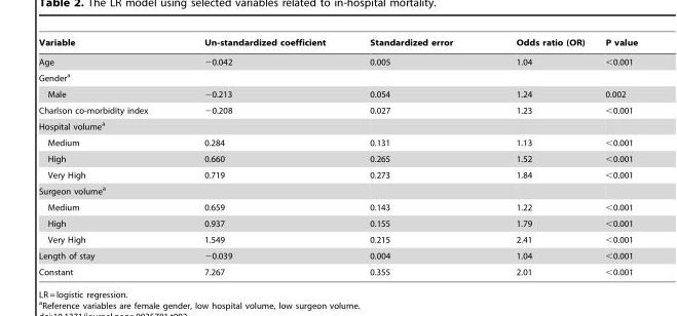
<table><thead><tr><td>Variable</td><td>Un-standardized coefficient</td><td>Standardized error</td><td>Odds ratio (OR)</td><td>P value</td></tr></thead><tbody><tr><td>Age</td><td>−0.042</td><td>0.005</td><td>1.04</td><td>&lt;0.001</td></tr><tr><td colspan="5">Gender<sup>a</sup></td></tr><tr><td>Male</td><td>−0.213</td><td>0.054</td><td>1.24</td><td>0.002</td></tr><tr><td>Charlson co-morbidity index</td><td>−0.208</td><td>0.027</td><td>1.23</td><td>&lt;0.001</td></tr><tr><td colspan="5">Hospital volume<sup>a</sup></td></tr><tr><td>Medium</td><td>0.284</td><td>0.131</td><td>1.13</td><td>&lt;0.001</td></tr><tr><td>High</td><td>0.660</td><td>0.265</td><td>1.52</td><td>&lt;0.001</td></tr><tr><td>Very High</td><td>0.719</td><td>0.273</td><td>1.84</td><td>&lt;0.001</td></tr><tr><td colspan="5">Surgeon volume<sup>a</sup></td></tr><tr><td>Medium</td><td>0.659</td><td>0.143</td><td>1.22</td><td>&lt;0.001</td></tr><tr><td>High</td><td>0.937</td><td>0.155</td><td>1.79</td><td>&lt;0.001</td></tr><tr><td>Very High</td><td>1.549</td><td>0.215</td><td>2.41</td><td>&lt;0.001</td></tr><tr><td>Length of stay</td><td>−0.039</td><td>0.004</td><td>1.04</td><td>&lt;0.001</td></tr><tr><td>Constant</td><td>7.267</td><td>0.355</td><td>2.01</td><td>&lt;0.001</td></tr></tbody></table>